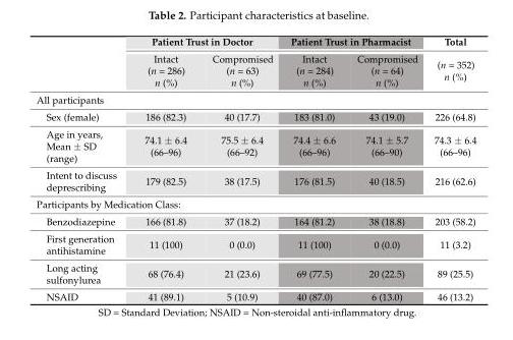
<table><thead><tr><td rowspan="2"></td><td colspan="2">Patient Trust in Doctor</td><td colspan="2">Patient Trust in Pharmacist</td><td rowspan="2">Total (n = 352) n (%)</td></tr><tr><td>Intact (n = 286) n (%)</td><td>Compromised (n = 63) n (%)</td><td>Intact (n = 284) n (%)</td><td>Compromised (n = 64) n (%)</td></tr></thead><tbody><tr><td colspan="6">All participants</td></tr><tr><td>Sex (female)</td><td>186 (82.3)</td><td>40 (17.7)</td><td>183 (81.0)</td><td>43 (19.0)</td><td>226 (64.8)</td></tr><tr><td>Age in years, Mean ± SD (range)</td><td>74.1 ± 6.4 (66–96)</td><td>75.5 ± 6.4 (66–92)</td><td>74.4 ± 6.6 (66–96)</td><td>74.1 ± 5.7 (66–90)</td><td>74.3 ± 6.4 (66–96)</td></tr><tr><td>Intent to discuss deprescribing</td><td>179 (82.5)</td><td>38 (17.5)</td><td>176 (81.5)</td><td>40 (18.5)</td><td>216 (62.6)</td></tr><tr><td colspan="6">Participants by Medication Class:</td></tr><tr><td>Benzodiazepine</td><td>166 (81.8)</td><td>37 (18.2)</td><td>164 (81.2)</td><td>38 (18.8)</td><td>203 (58.2)</td></tr><tr><td>First generation antihistamine</td><td>11 (100)</td><td>0 (0.0)</td><td>11 (100)</td><td>0 (0.0)</td><td>11 (3.2)</td></tr><tr><td>Long acting sulfonylurea</td><td>68 (76.4)</td><td>21 (23.6)</td><td>69 (77.5)</td><td>20 (22.5)</td><td>89 (25.5)</td></tr><tr><td>NSAID</td><td>41 (89.1)</td><td>5 (10.9)</td><td>40 (87.0)</td><td>6 (13.0)</td><td>46 (13.2)</td></tr></tbody></table>